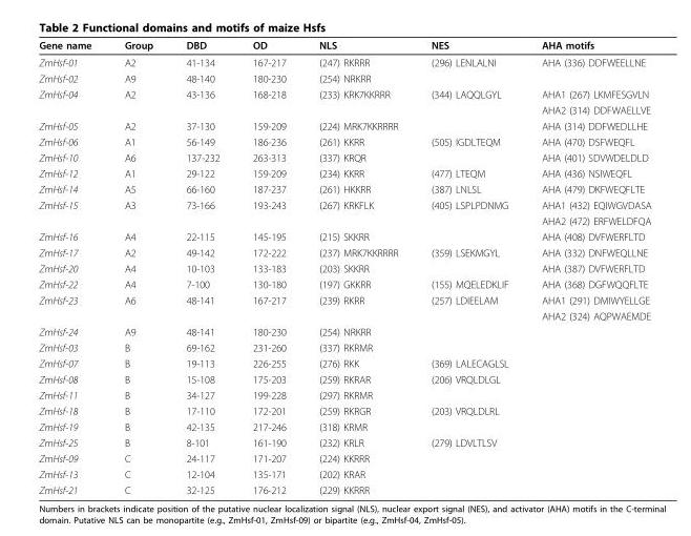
<table><thead><tr><td>Gene name</td><td>Group</td><td>DBD</td><td>OD</td><td>NLS</td><td>NES</td><td>AHA motifs</td></tr></thead><tbody><tr><td>ZmHsf-01</td><td>A2</td><td>41-134</td><td>167-217</td><td>(247) RKRRR</td><td>(296) LENLALNI</td><td>AHA (336) DDFWEELLNE</td></tr><tr><td>ZmHsf-02</td><td>A9</td><td>48-140</td><td>180-230</td><td>(254) NRKRR</td><td></td><td></td></tr><tr><td rowspan="2">ZmHsf-04</td><td>A2</td><td>43-136</td><td>168-218</td><td>(233) KRK7KKRRR</td><td>(344) LAQQLGYL</td><td>AHA1 (267) LKMFESGVLN</td></tr><tr><td></td><td></td><td></td><td></td><td></td><td>AHA2 (314) DDFWAELLVE</td></tr><tr><td>ZmHsf-05</td><td>A2</td><td>37-130</td><td>159-209</td><td>(224) MRK7KKRRRR</td><td></td><td>AHA (314) DDFWEDLLHE</td></tr><tr><td>ZmHsf-06</td><td>A1</td><td>56-149</td><td>186-236</td><td>(261) KKRR</td><td>(505) IGDLTEQM</td><td>AHA (470) DSFWEQFL</td></tr><tr><td>ZmHsf-10</td><td>A6</td><td>137-232</td><td>263-313</td><td>(337) KRQR</td><td></td><td>AHA (401) SDVWDELDLD</td></tr><tr><td>ZmHsf-12</td><td>A1</td><td>29-122</td><td>159-209</td><td>(234) KKRR</td><td>(477) LTEQM</td><td>AHA (436) NSIWEQFL</td></tr><tr><td>ZmHsf-14</td><td>A5</td><td>66-160</td><td>187-237</td><td>(261) HKKRR</td><td>(387) LNLSL</td><td>AHA (479) DKFWEQFLTE</td></tr><tr><td rowspan="2">ZmHsf-15</td><td>A3</td><td>73-166</td><td>193-243</td><td>(267) KRKFLK</td><td>(405) LSPLPDNMG</td><td>AHA1 (432) EQIWGVDASA</td></tr><tr><td></td><td></td><td></td><td></td><td></td><td>AHA2 (472) ERFWELDFQA</td></tr><tr><td>ZmHsf-16</td><td>A4</td><td>22-115</td><td>145-195</td><td>(215) SKKRR</td><td></td><td>AHA (408) DVFWERFLTD</td></tr><tr><td>ZmHsf-17</td><td>A2</td><td>49-142</td><td>172-222</td><td>(237) MRK7KKRRRR</td><td>(359) LSEKMGYL</td><td>AHA (332) DNFWEQLLNE</td></tr><tr><td>ZmHsf-20</td><td>A4</td><td>10-103</td><td>133-183</td><td>(203) SKKRR</td><td></td><td>AHA (387) DVFWERFLTD</td></tr><tr><td>ZmHsf-22</td><td>A4</td><td>7-100</td><td>130-180</td><td>(197) GKKRR</td><td>(155) MQELEDKLIF</td><td>AHA (368) DGFWQQFLTE</td></tr><tr><td rowspan="2">ZmHsf-23</td><td>A6</td><td>48-141</td><td>167-217</td><td>(239) RKRR</td><td>(257) LDIEELAM</td><td>AHA1 (291) DMIWYELLGE</td></tr><tr><td></td><td></td><td></td><td></td><td></td><td>AHA2 (324) AQPWAEMDE</td></tr><tr><td>ZmHsf-24</td><td>A9</td><td>48-141</td><td>180-230</td><td>(254) NRKRR</td><td></td><td></td></tr><tr><td>ZmHsf-03</td><td>B</td><td>69-162</td><td>231-260</td><td>(337) RKRMR</td><td></td><td></td></tr><tr><td>ZmHsf-07</td><td>B</td><td>19-113</td><td>226-255</td><td>(276) RKK</td><td>(369) LALECAGLSL</td><td></td></tr><tr><td>ZmHsf-08</td><td>B</td><td>15-108</td><td>175-203</td><td>(259) RKRAR</td><td>(206) VRQLDLGL</td><td></td></tr><tr><td>ZmHsf-11</td><td>B</td><td>34-127</td><td>199-228</td><td>(297) RKRMR</td><td></td><td></td></tr><tr><td>ZmHsf-18</td><td>B</td><td>17-110</td><td>172-201</td><td>(259) RKRGR</td><td>(203) VRQLDLRL</td><td></td></tr><tr><td>ZmHsf-19</td><td>B</td><td>42-135</td><td>217-246</td><td>(318) KRMR</td><td></td><td></td></tr><tr><td>ZmHsf-25</td><td>B</td><td>8-101</td><td>161-190</td><td>(232) KRLR</td><td>(279) LDVLTLSV</td><td></td></tr><tr><td>ZmHsf-09</td><td>C</td><td>24-117</td><td>171-207</td><td>(224) KKRRR</td><td></td><td></td></tr><tr><td>ZmHsf-13</td><td>C</td><td>12-104</td><td>135-171</td><td>(202) KRAR</td><td></td><td></td></tr><tr><td>ZmHsf-21</td><td>C</td><td>32-125</td><td>176-212</td><td>(229) KKRRR</td><td></td><td></td></tr></tbody></table>